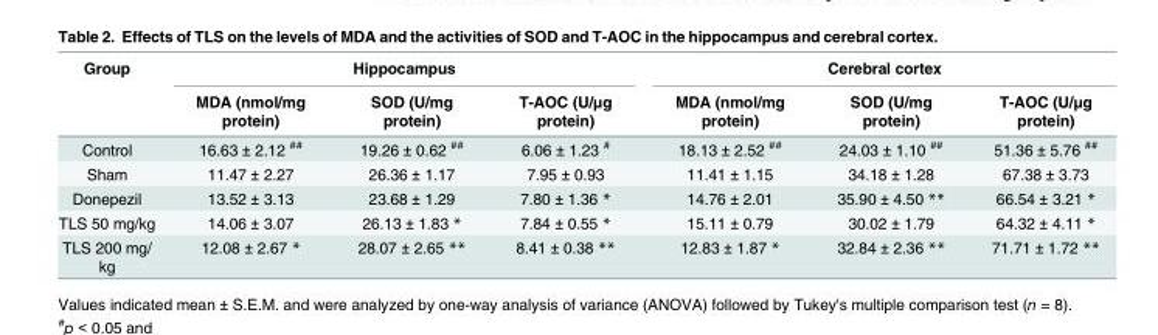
<table><thead><tr><td rowspan="2">Group</td><td colspan="3">Hippocampus</td><td colspan="3">Cerebral cortex</td></tr><tr><td>MDA (nmol/mg protein)</td><td>SOD (U/mg protein)</td><td>T-AOC (U/μg protein)</td><td>MDA (nmol/mg protein)</td><td>SOD (U/mg protein)</td><td>T-AOC (U/μg protein)</td></tr></thead><tbody><tr><td>Control</td><td>16.63 ± 2.12 <sup>##</sup></td><td>19.26 ± 0.62 <sup>##</sup></td><td>6.06 ± 1.23 <sup>#</sup></td><td>18.13 ± 2.52 <sup>##</sup></td><td>24.03 ± 1.10 <sup>##</sup></td><td>51.36 ± 5.76 <sup>##</sup></td></tr><tr><td>Sham</td><td>11.47 ± 2.27</td><td>26.36 ± 1.17</td><td>7.95 ± 0.93</td><td>11.41 ± 1.15</td><td>34.18 ± 1.28</td><td>67.38 ± 3.73</td></tr><tr><td>Donepezil</td><td>13.52 ± 3.13</td><td>23.68 ± 1.29</td><td>7.80 ± 1.36 *</td><td>14.76 ± 2.01</td><td>35.90 ± 4.50 **</td><td>66.54 ± 3.21 *</td></tr><tr><td>TLS 50 mg/kg</td><td>14.06 ± 3.07</td><td>26.13 ± 1.83 *</td><td>7.84 ± 0.55 *</td><td>15.11 ± 0.79</td><td>30.02 ± 1.79</td><td>64.32 ± 4.11 *</td></tr><tr><td>TLS 200 mg/ kg</td><td>12.08 ± 2.67 *</td><td>28.07 ± 2.65 **</td><td>8.41 ± 0.38 **</td><td>12.83 ± 1.87 *</td><td>32.84 ± 2.36 **</td><td>71.71 ± 1.72 **</td></tr></tbody></table>